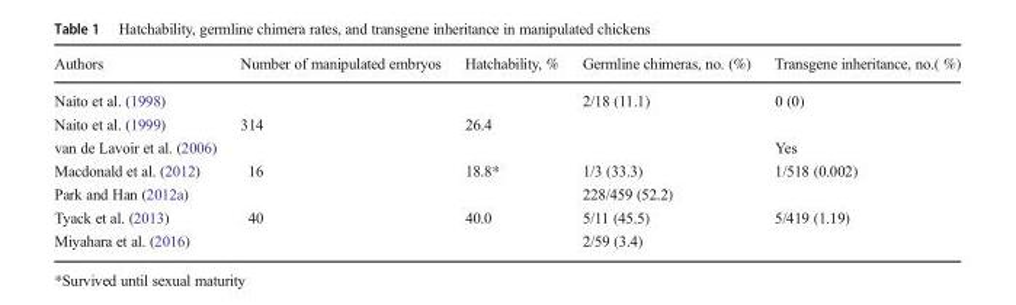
<table><thead><tr><td>Authors</td><td>Number of manipulated embryos</td><td>Hatchability, %</td><td>Germline chimeras, no. (%)</td><td>Transgene inheritance, no.( %)</td></tr></thead><tbody><tr><td>Naito et al. (1998)</td><td></td><td></td><td>2/18 (11.1)</td><td>0 (0)</td></tr><tr><td>Naito et al. (1999)</td><td>314</td><td>26.4</td><td></td><td></td></tr><tr><td>van de Lavoir et al. (2006)</td><td></td><td></td><td></td><td>Yes</td></tr><tr><td>Macdonald et al. (2012)</td><td>16</td><td>18.8*</td><td>1/3 (33.3)</td><td>1/518 (0.002)</td></tr><tr><td>Park and Han (2012a)</td><td></td><td></td><td>228/459 (52.2)</td><td></td></tr><tr><td>Tyack et al. (2013)</td><td>40</td><td>40.0</td><td>5/11 (45.5)</td><td>5/419 (1.19)</td></tr><tr><td>Miyahara et al. (2016)</td><td></td><td></td><td>2/59 (3.4)</td><td></td></tr></tbody></table>